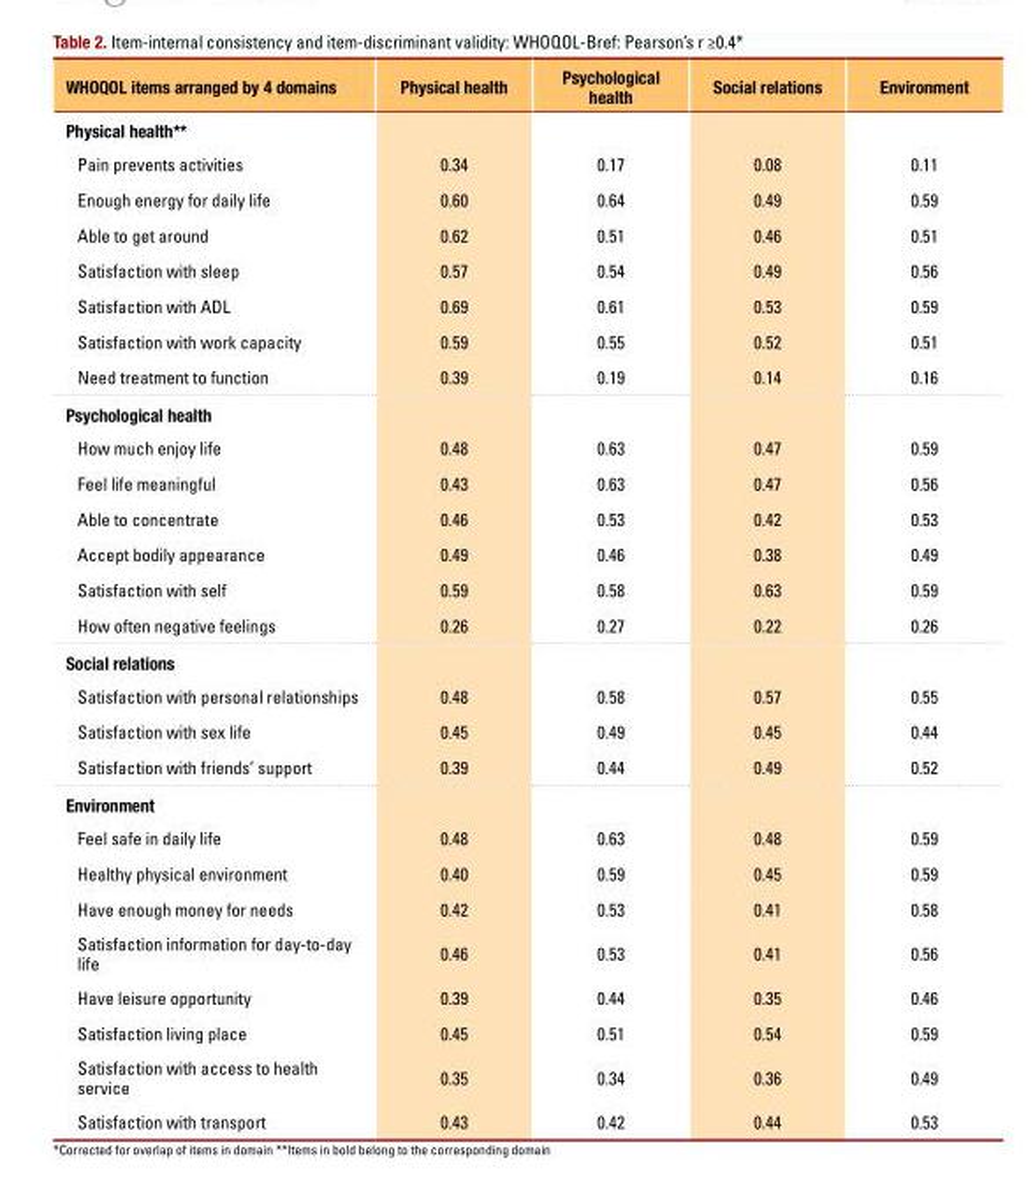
<table><thead><tr><td>WHOQOL items arranged by 4 domains</td><td>Physical health</td><td>Psychological health</td><td>Social relations</td><td>Environment</td></tr></thead><tbody><tr><td colspan="5">Physical health**</td></tr><tr><td>Pain prevents activities</td><td>0.34</td><td>0.17</td><td>0.08</td><td>0.11</td></tr><tr><td>Enough energy for daily life</td><td>0.60</td><td>0.64</td><td>0.49</td><td>0.59</td></tr><tr><td>Able to get around</td><td>0.62</td><td>0.51</td><td>0.46</td><td>0.51</td></tr><tr><td>Satisfaction with sleep</td><td>0.57</td><td>0.54</td><td>0.49</td><td>0.56</td></tr><tr><td>Satisfaction with ADL</td><td>0.69</td><td>0.61</td><td>0.53</td><td>0.59</td></tr><tr><td>Satisfaction with work capacity</td><td>0.59</td><td>0.55</td><td>0.52</td><td>0.51</td></tr><tr><td>Need treatment to function</td><td>0.39</td><td>0.19</td><td>0.14</td><td>0.16</td></tr><tr><td colspan="5">Psychological health</td></tr><tr><td>How much enjoy life</td><td>0.48</td><td>0.63</td><td>0.47</td><td>0.59</td></tr><tr><td>Feel life meaningful</td><td>0.43</td><td>0.63</td><td>0.47</td><td>0.56</td></tr><tr><td>Able to concentrate</td><td>0.46</td><td>0.53</td><td>0.42</td><td>0.53</td></tr><tr><td>Accept bodily appearance</td><td>0.49</td><td>0.46</td><td>0.38</td><td>0.49</td></tr><tr><td>Satisfaction with self</td><td>0.59</td><td>0.58</td><td>0.63</td><td>0.59</td></tr><tr><td>How often negative feelings</td><td>0.26</td><td>0.27</td><td>0.22</td><td>0.26</td></tr><tr><td colspan="5">Social relations</td></tr><tr><td>Satisfaction with personal relationships</td><td>0.48</td><td>0.58</td><td>0.57</td><td>0.55</td></tr><tr><td>Satisfaction with sex life</td><td>0.45</td><td>0.49</td><td>0.45</td><td>0.44</td></tr><tr><td>Satisfaction with friends’ support</td><td>0.39</td><td>0.44</td><td>0.49</td><td>0.52</td></tr><tr><td colspan="5">Environment</td></tr><tr><td>Feel safe in daily life</td><td>0.48</td><td>0.63</td><td>0.48</td><td>0.59</td></tr><tr><td>Healthy physical environment</td><td>0.40</td><td>0.59</td><td>0.45</td><td>0.59</td></tr><tr><td>Have enough money for needs</td><td>0.42</td><td>0.53</td><td>0.41</td><td>0.58</td></tr><tr><td>Satisfaction information for day-to-day life</td><td>0.46</td><td>0.53</td><td>0.41</td><td>0.56</td></tr><tr><td>Have leisure opportunity</td><td>0.39</td><td>0.44</td><td>0.35</td><td>0.46</td></tr><tr><td>Satisfaction living place</td><td>0.45</td><td>0.51</td><td>0.54</td><td>0.59</td></tr><tr><td>Satisfaction with access to health service</td><td>0.35</td><td>0.34</td><td>0.36</td><td>0.49</td></tr><tr><td>Satisfaction with transport</td><td>0.43</td><td>0.42</td><td>0.44</td><td>0.53</td></tr></tbody></table>